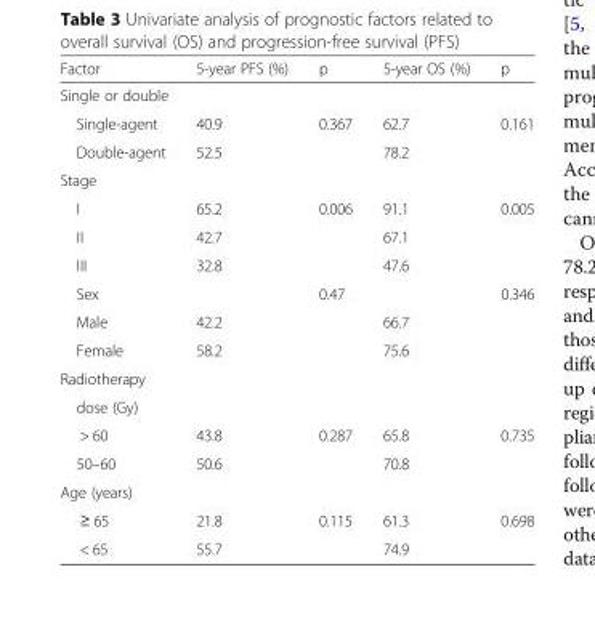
<table><thead><tr><td>Factor</td><td>5-year PFS (%)</td><td>p</td><td>5-year OS (%)</td><td>p</td></tr></thead><tbody><tr><td colspan="5">Single or double</td></tr><tr><td>Single-agent</td><td>40.9</td><td>0.367</td><td>62.7</td><td>0.161</td></tr><tr><td>Double-agent</td><td>52.5</td><td></td><td>78.2</td><td></td></tr><tr><td colspan="5">Stage</td></tr><tr><td>I</td><td>65.2</td><td>0.006</td><td>91.1</td><td>0.005</td></tr><tr><td>II</td><td>42.7</td><td></td><td>67.1</td><td></td></tr><tr><td>III</td><td>32.8</td><td></td><td>47.6</td><td></td></tr><tr><td>Sex</td><td></td><td>0.47</td><td></td><td>0.346</td></tr><tr><td>Male</td><td>42.2</td><td></td><td>66.7</td><td></td></tr><tr><td>Female</td><td>58.2</td><td></td><td>75.6</td><td></td></tr><tr><td colspan="5">Radiotherapy</td></tr><tr><td colspan="5">dose (Gy)</td></tr><tr><td>&gt; 60</td><td>43.8</td><td>0.287</td><td>65.8</td><td>0.735</td></tr><tr><td>50–60</td><td>50.6</td><td></td><td>70.8</td><td></td></tr><tr><td colspan="5">Age (years)</td></tr><tr><td>≥ 65</td><td>21.8</td><td>0.115</td><td>61.3</td><td>0.698</td></tr><tr><td>&lt; 65</td><td>55.7</td><td></td><td>74.9</td><td></td></tr></tbody></table>